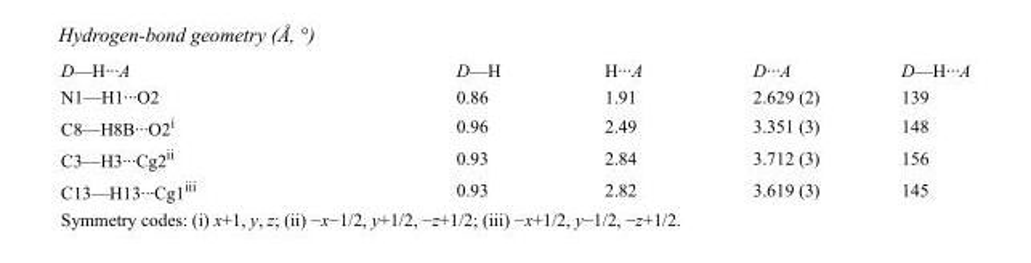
<table><tbody><tr><td>D—H···A</td><td>D—H</td><td>H···A</td><td>D···A</td><td>D—H···A</td></tr><tr><td>N1—H1···O2</td><td>0.86</td><td>1.91</td><td>2.629 (2)</td><td>139</td></tr><tr><td>C8—H8B···O2<sup>i</sup></td><td>0.96</td><td>2.49</td><td>3.351 (3)</td><td>148</td></tr><tr><td>C3—H3···Cg2<sup>ii</sup></td><td>0.93</td><td>2.84</td><td>3.712 (3)</td><td>156</td></tr><tr><td>C13—H13···Cg1<sup>iii</sup></td><td>0.93</td><td>2.82</td><td>3.619 (3)</td><td>145</td></tr></tbody></table>